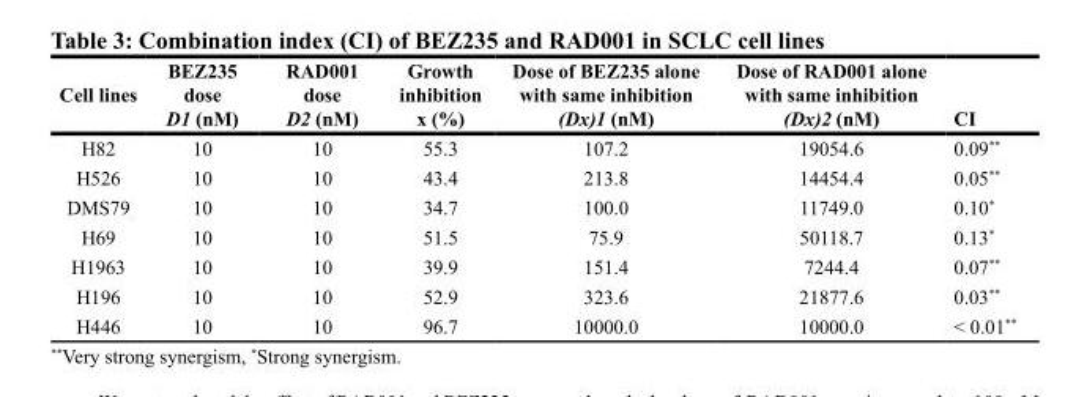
<table><thead><tr><td>Cell lines</td><td>BEZ235 dose D1 (nM)</td><td>RAD001 dose D2 (nM)</td><td>Growth inhibition x (%)</td><td>Dose of BEZ235 alone with same inhibition (Dx)1 (nM)</td><td>Dose of RAD001 alone with same inhibition (Dx)2 (nM)</td><td>CI</td></tr></thead><tbody><tr><td>H82</td><td>10</td><td>10</td><td>55.3</td><td>107.2</td><td>19054.6</td><td>0.09**</td></tr><tr><td>H526</td><td>10</td><td>10</td><td>43.4</td><td>213.8</td><td>14454.4</td><td>0.05**</td></tr><tr><td>DMS79</td><td>10</td><td>10</td><td>34.7</td><td>100.0</td><td>11749.0</td><td>0.10*</td></tr><tr><td>H69</td><td>10</td><td>10</td><td>51.5</td><td>75.9</td><td>50118.7</td><td>0.13*</td></tr><tr><td>H1963</td><td>10</td><td>10</td><td>39.9</td><td>151.4</td><td>7244.4</td><td>0.07**</td></tr><tr><td>H196</td><td>10</td><td>10</td><td>52.9</td><td>323.6</td><td>21877.6</td><td>0.03**</td></tr><tr><td>H446</td><td>10</td><td>10</td><td>96.7</td><td>10000.0</td><td>10000.0</td><td>&lt; 0.01**</td></tr></tbody></table>